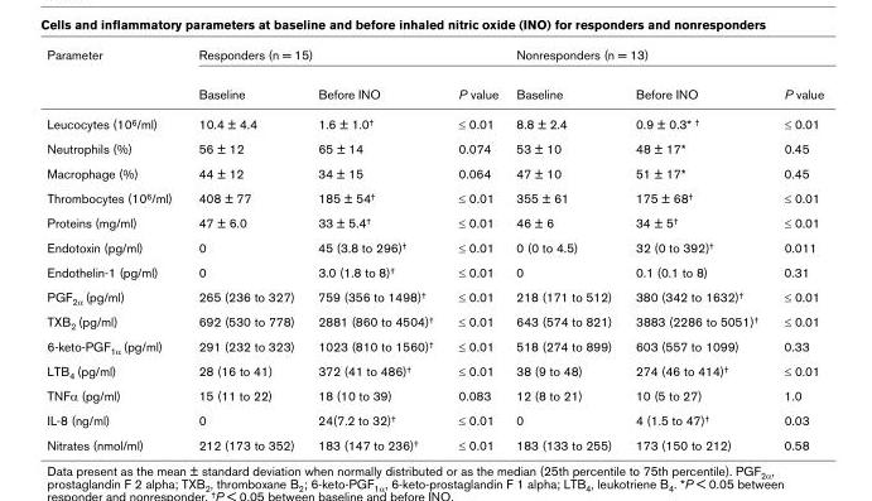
<table><thead><tr><td rowspan="2">Parameter</td><td colspan="3">Responders (n = 15)</td><td colspan="3">Nonresponders (n = 13)</td></tr><tr><td>Baseline</td><td>Before INO</td><td>P value</td><td>Baseline</td><td>Before INO</td><td>P value</td></tr></thead><tbody><tr><td>Leucocytes (10<sup>6</sup>/ml)</td><td>10.4 ± 4.4</td><td>1.6 ± 1.0<sup>†</sup></td><td>≤ 0.01</td><td>8.8 ± 2.4</td><td>0.9 ± 0.3* <sup>†</sup></td><td>≤ 0.01</td></tr><tr><td>Neutrophils (%)</td><td>56 ± 12</td><td>65 ± 14</td><td>0.074</td><td>53 ± 10</td><td>48 ± 17*</td><td>0.45</td></tr><tr><td>Macrophage (%)</td><td>44 ± 12</td><td>34 ± 15</td><td>0.064</td><td>47 ± 10</td><td>51 ± 17*</td><td>0.45</td></tr><tr><td>Thrombocytes (10<sup>6</sup>/ml)</td><td>408 ± 77</td><td>185 ± 54<sup>†</sup></td><td>≤ 0.01</td><td>355 ± 61</td><td>175 ± 68<sup>†</sup></td><td>≤ 0.01</td></tr><tr><td>Proteins (mg/ml)</td><td>47 ± 6.0</td><td>33 ± 5.4<sup>†</sup></td><td>≤ 0.01</td><td>46 ± 6</td><td>34 ± 5<sup>†</sup></td><td>≤ 0.01</td></tr><tr><td>Endotoxin (pg/ml)</td><td>0</td><td>45 (3.8 to 296)<sup>†</sup></td><td>≤ 0.01</td><td>0 (0 to 4.5)</td><td>32 (0 to 392)<sup>†</sup></td><td>0.011</td></tr><tr><td>Endothelin-1 (pg/ml)</td><td>0</td><td>3.0 (1.8 to 8)<sup>†</sup></td><td>≤ 0.01</td><td>0</td><td>0.1 (0.1 to 8)</td><td>0.31</td></tr><tr><td>PGF<sub>2α</sub> (pg/ml)</td><td>265 (236 to 327)</td><td>759 (356 to 1498)<sup>†</sup></td><td>≤ 0.01</td><td>218 (171 to 512)</td><td>380 (342 to 1632)<sup>†</sup></td><td>≤ 0.01</td></tr><tr><td>TXB<sub>2</sub> (pg/ml)</td><td>692 (530 to 778)</td><td>2881 (860 to 4504)<sup>†</sup></td><td>≤ 0.01</td><td>643 (574 to 821)</td><td>3883 (2286 to 5051)<sup>†</sup></td><td>≤ 0.01</td></tr><tr><td>6-keto-PGF<sub>1α</sub> (pg/ml)</td><td>291 (232 to 323)</td><td>1023 (810 to 1560)<sup>†</sup></td><td>≤ 0.01</td><td>518 (274 to 899)</td><td>603 (557 to 1099)</td><td>0.33</td></tr><tr><td>LTB<sub>4</sub> (pg/ml)</td><td>28 (16 to 41)</td><td>372 (41 to 486)<sup>†</sup></td><td>≤ 0.01</td><td>38 (9 to 48)</td><td>274 (46 to 414)<sup>†</sup></td><td>≤ 0.01</td></tr><tr><td>TNFα (pg/ml)</td><td>15 (11 to 22)</td><td>18 (10 to 39)</td><td>0.083</td><td>12 (8 to 21)</td><td>10 (5 to 27)</td><td>1.0</td></tr><tr><td>IL-8 (ng/ml)</td><td>0</td><td>24(7.2 to 32)<sup>†</sup></td><td>≤ 0.01</td><td>0</td><td>4 (1.5 to 47)<sup>†</sup></td><td>0.03</td></tr><tr><td>Nitrates (nmol/ml)</td><td>212 (173 to 352)</td><td>183 (147 to 236)<sup>†</sup></td><td>≤ 0.01</td><td>183 (133 to 255)</td><td>173 (150 to 212)</td><td>0.58</td></tr></tbody></table>